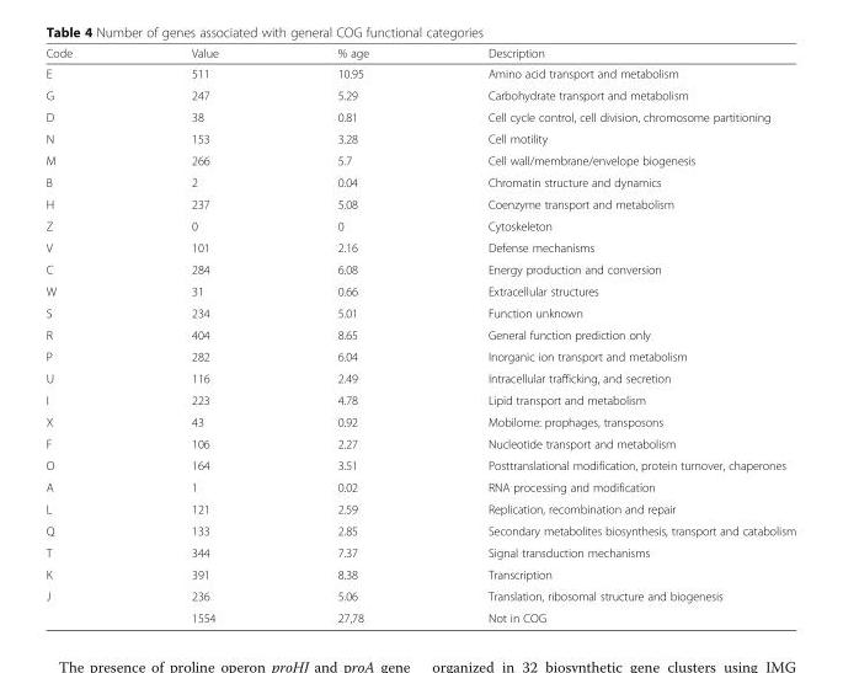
<table><thead><tr><td>Code</td><td>Value</td><td>% age</td><td>Description</td></tr></thead><tbody><tr><td>E</td><td>511</td><td>10.95</td><td>Amino acid transport and metabolism</td></tr><tr><td>G</td><td>247</td><td>5.29</td><td>Carbohydrate transport and metabolism</td></tr><tr><td>D</td><td>38</td><td>0.81</td><td>Cell cycle control, cell division, chromosome partitioning</td></tr><tr><td>N</td><td>153</td><td>3.28</td><td>Cell motility</td></tr><tr><td>M</td><td>266</td><td>5.7</td><td>Cell wall/membrane/envelope biogenesis</td></tr><tr><td>B</td><td>2</td><td>0.04</td><td>Chromatin structure and dynamics</td></tr><tr><td>H</td><td>237</td><td>5.08</td><td>Coenzyme transport and metabolism</td></tr><tr><td>Z</td><td>0</td><td>0</td><td>Cytoskeleton</td></tr><tr><td>V</td><td>101</td><td>2.16</td><td>Defense mechanisms</td></tr><tr><td>C</td><td>284</td><td>6.08</td><td>Energy production and conversion</td></tr><tr><td>W</td><td>31</td><td>0.66</td><td>Extracellular structures</td></tr><tr><td>S</td><td>234</td><td>5.01</td><td>Function unknown</td></tr><tr><td>R</td><td>404</td><td>8.65</td><td>General function prediction only</td></tr><tr><td>P</td><td>282</td><td>6.04</td><td>Inorganic ion transport and metabolism</td></tr><tr><td>U</td><td>116</td><td>2.49</td><td>Intracellular trafficking, and secretion</td></tr><tr><td>I</td><td>223</td><td>4.78</td><td>Lipid transport and metabolism</td></tr><tr><td>X</td><td>43</td><td>0.92</td><td>Mobilome: prophages, transposons</td></tr><tr><td>F</td><td>106</td><td>2.27</td><td>Nucleotide transport and metabolism</td></tr><tr><td>O</td><td>164</td><td>3.51</td><td>Posttranslational modification, protein turnover, chaperones</td></tr><tr><td>A</td><td>1</td><td>0.02</td><td>RNA processing and modification</td></tr><tr><td>L</td><td>121</td><td>2.59</td><td>Replication, recombination and repair</td></tr><tr><td>Q</td><td>133</td><td>2.85</td><td>Secondary metabolites biosynthesis, transport and catabolism</td></tr><tr><td>T</td><td>344</td><td>7.37</td><td>Signal transduction mechanisms</td></tr><tr><td>K</td><td>391</td><td>8.38</td><td>Transcription</td></tr><tr><td rowspan="2">J</td><td>236</td><td>5.06</td><td>Translation, ribosomal structure and biogenesis</td></tr><tr><td>1554</td><td>27,78</td><td>Not in COG</td></tr></tbody></table>